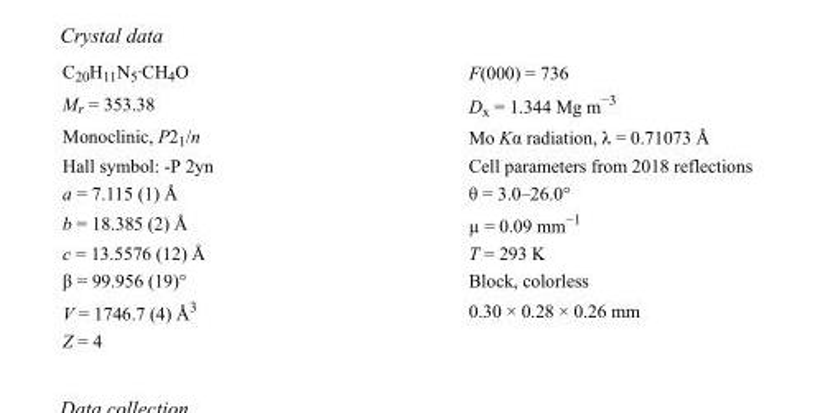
<table><tbody><tr><td>C<sub>20</sub>H<sub>11</sub>N<sub>5</sub>·CH<sub>4</sub>O</td><td>F(000) = 736</td></tr><tr><td>M<sub>r</sub> = 353.38</td><td>D<sub>x</sub> = 1.344 Mg m<sup>−3</sup></td></tr><tr><td>Monoclinic, P2<sub>1</sub>/n</td><td>Mo Kα radiation, λ = 0.71073 Å</td></tr><tr><td>Hall symbol: -P 2yn</td><td>Cell parameters from 2018 reflections</td></tr><tr><td>a = 7.115 (1) Å</td><td>θ = 3.0–26.0°</td></tr><tr><td>b = 18.385 (2) Å</td><td>µ = 0.09 mm<sup>−1</sup></td></tr><tr><td>c = 13.5576 (12) Å</td><td>T = 293 K</td></tr><tr><td>β = 99.956 (19)°</td><td>Block, colorless</td></tr><tr><td>V = 1746.7 (4) Å<sup>3</sup></td><td>0.30 × 0.28 × 0.26 mm</td></tr><tr><td>Z = 4</td><td></td></tr></tbody></table>